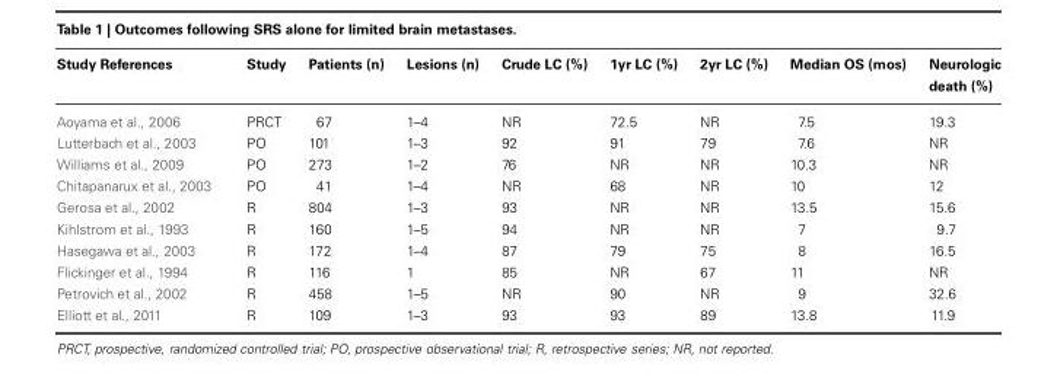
<table><thead><tr><td>Study References</td><td>Study</td><td>Patients (n)</td><td>Lesions (n)</td><td>Crude LC (%)</td><td>1yr LC (%)</td><td>2yr LC (%)</td><td>Median OS (mos)</td><td>Neurologic death (%)</td></tr></thead><tbody><tr><td>Aoyama et al., 2006</td><td>PRCT</td><td>67</td><td>1–4</td><td>NR</td><td>72.5</td><td>NR</td><td>7.5</td><td>19.3</td></tr><tr><td>Lutterbach et al., 2003</td><td>PO</td><td>101</td><td>1–3</td><td>92</td><td>91</td><td>79</td><td>7.6</td><td>NR</td></tr><tr><td>Williams et al., 2009</td><td>PO</td><td>273</td><td>1–2</td><td>76</td><td>NR</td><td>NR</td><td>10.3</td><td>NR</td></tr><tr><td>Chitapanarux et al., 2003</td><td>PO</td><td>41</td><td>1–4</td><td>NR</td><td>68</td><td>NR</td><td>10</td><td>12</td></tr><tr><td>Gerosa et al., 2002</td><td>R</td><td>804</td><td>1–3</td><td>93</td><td>NR</td><td>NR</td><td>13.5</td><td>15.6</td></tr><tr><td>Kihlstrom et al., 1993</td><td>R</td><td>160</td><td>1–5</td><td>94</td><td>NR</td><td>NR</td><td>7</td><td>9.7</td></tr><tr><td>Hasegawa et al., 2003</td><td>R</td><td>172</td><td>1–4</td><td>87</td><td>79</td><td>75</td><td>8</td><td>16.5</td></tr><tr><td>Flickinger et al., 1994</td><td>R</td><td>116</td><td>1</td><td>85</td><td>NR</td><td>67</td><td>11</td><td>NR</td></tr><tr><td>Petrovich et al., 2002</td><td>R</td><td>458</td><td>1–5</td><td>NR</td><td>90</td><td>NR</td><td>9</td><td>32.6</td></tr><tr><td>Elliott et al., 2011</td><td>R</td><td>109</td><td>1–3</td><td>93</td><td>93</td><td>89</td><td>13.8</td><td>11.9</td></tr></tbody></table>